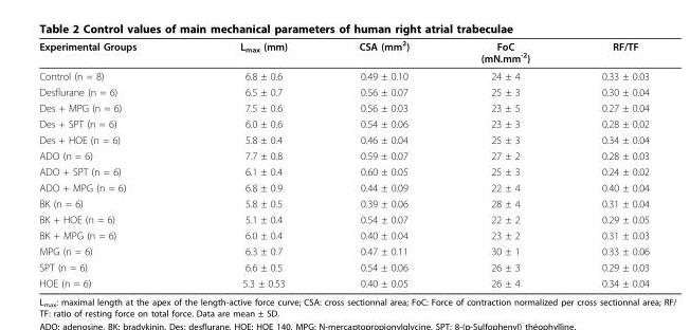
<table><thead><tr><td>Experimental Groups</td><td>L<sub>max</sub> (mm)</td><td>CSA (mm<sup>2</sup>)</td><td>FoC (mN.mm<sup>-2</sup>)</td><td>RF/TF</td></tr></thead><tbody><tr><td>Control (n = 8)</td><td>6.8 ± 0.6</td><td>0.49 ± 0.10</td><td>24 ± 4</td><td>0.33 ± 0.03</td></tr><tr><td>Desflurane (n = 6)</td><td>6.5 ± 0.7</td><td>0.56 ± 0.07</td><td>25 ± 3</td><td>0.30 ± 0.04</td></tr><tr><td>Des + MPG (n = 6)</td><td>7.5 ± 0.6</td><td>0.56 ± 0.03</td><td>23 ± 5</td><td>0.27 ± 0.04</td></tr><tr><td>Des + SPT (n = 6)</td><td>6.0 ± 0.6</td><td>0.54 ± 0.06</td><td>23 ± 3</td><td>0.28 ± 0.02</td></tr><tr><td>Des + HOE (n = 6)</td><td>5.8 ± 0.4</td><td>0.46 ± 0.04</td><td>25 ± 3</td><td>0.34 ± 0.04</td></tr><tr><td>ADO (n = 6)</td><td>7.7 ± 0.8</td><td>0.59 ± 0.07</td><td>27 ± 2</td><td>0.28 ± 0.03</td></tr><tr><td>ADO + SPT (n = 6)</td><td>6.1 ± 0.4</td><td>0.60 ± 0.05</td><td>25 ± 3</td><td>0.24 ± 0.02</td></tr><tr><td>ADO + MPG (n = 6)</td><td>6.8 ± 0.9</td><td>0.44 ± 0.09</td><td>22 ± 4</td><td>0.40 ± 0.04</td></tr><tr><td>BK (n = 6)</td><td>5.8 ± 0.5</td><td>0.39 ± 0.06</td><td>28 ± 4</td><td>0.31 ± 0.04</td></tr><tr><td>BK + HOE (n = 6)</td><td>5.1 ± 0.4</td><td>0.54 ± 0.07</td><td>22 ± 2</td><td>0.29 ± 0.05</td></tr><tr><td>BK + MPG (n = 6)</td><td>6.0 ± 0.4</td><td>0.40 ± 0.04</td><td>23 ± 2</td><td>0.31 ± 0.03</td></tr><tr><td>MPG (n = 6)</td><td>6.3 ± 0.7</td><td>0.47 ± 0.11</td><td>30 ± 1</td><td>0.33 ± 0.06</td></tr><tr><td>SPT (n = 6)</td><td>6.6 ± 0.5</td><td>0.54 ± 0.06</td><td>26 ± 3</td><td>0.29 ± 0.03</td></tr><tr><td>HOE (n = 6)</td><td>5.3 ± 0.53</td><td>0.40 ± 0.05</td><td>26 ± 4</td><td>0.34 ± 0.04</td></tr></tbody></table>